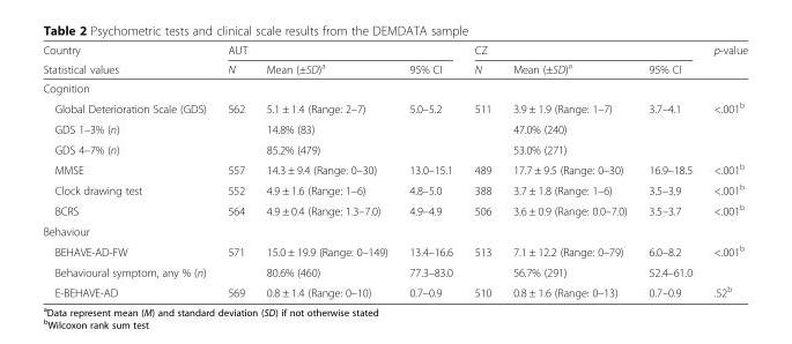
<table><thead><tr><td rowspan="2">Country Statistical values</td><td colspan="3">AUT</td><td colspan="3">CZ</td><td rowspan="2">p-value</td></tr><tr><td>N</td><td>Mean (±SD)<sup>a</sup></td><td>95% CI</td><td>N</td><td>Mean (±SD)<sup>a</sup></td><td>95% CI</td></tr></thead><tbody><tr><td colspan="8">Cognition</td></tr><tr><td>Global Deterioration Scale (GDS)</td><td>562</td><td>5.1 ± 1.4 (Range: 2–7)</td><td>5.0–5.2</td><td>511</td><td>3.9 ± 1.9 (Range: 1–7)</td><td>3.7–4.1</td><td>&lt;.001<sup>b</sup></td></tr><tr><td>GDS 1–3% (n)</td><td></td><td>14.8% (83)</td><td></td><td></td><td>47.0% (240)</td><td></td><td></td></tr><tr><td>GDS 4–7% (n)</td><td></td><td>85.2% (479)</td><td></td><td></td><td>53.0% (271)</td><td></td><td></td></tr><tr><td>MMSE</td><td>557</td><td>14.3 ± 9.4 (Range: 0–30)</td><td>13.0–15.1</td><td>489</td><td>17.7 ± 9.5 (Range: 0–30)</td><td>16.9–18.5</td><td>&lt;.001<sup>b</sup></td></tr><tr><td>Clock drawing test</td><td>552</td><td>4.9 ± 1.6 (Range: 1–6)</td><td>4.8–5.0</td><td>388</td><td>3.7 ± 1.8 (Range: 1–6)</td><td>3.5–3.9</td><td>&lt;.001<sup>b</sup></td></tr><tr><td>BCRS</td><td>564</td><td>4.9 ± 0.4 (Range: 1.3–7.0)</td><td>4.9–4.9</td><td>506</td><td>3.6 ± 0.9 (Range: 0.0–7.0)</td><td>3.5–3.7</td><td>&lt;.001<sup>b</sup></td></tr><tr><td colspan="8">Behaviour</td></tr><tr><td>BEHAVE-AD-FW</td><td>571</td><td>15.0 ± 19.9 (Range: 0–149)</td><td>13.4–16.6</td><td>513</td><td>7.1 ± 12.2 (Range: 0–79)</td><td>6.0–8.2</td><td>&lt;.001<sup>b</sup></td></tr><tr><td>Behavioural symptom, any % (n)</td><td></td><td>80.6% (460)</td><td>77.3–83.0</td><td></td><td>56.7% (291)</td><td>52.4–61.0</td><td></td></tr><tr><td>E-BEHAVE-AD</td><td>569</td><td>0.8 ± 1.4 (Range: 0–10)</td><td>0.7–0.9</td><td>510</td><td>0.8 ± 1.6 (Range: 0–13)</td><td>0.7–0.9</td><td>.52<sup>b</sup></td></tr></tbody></table>